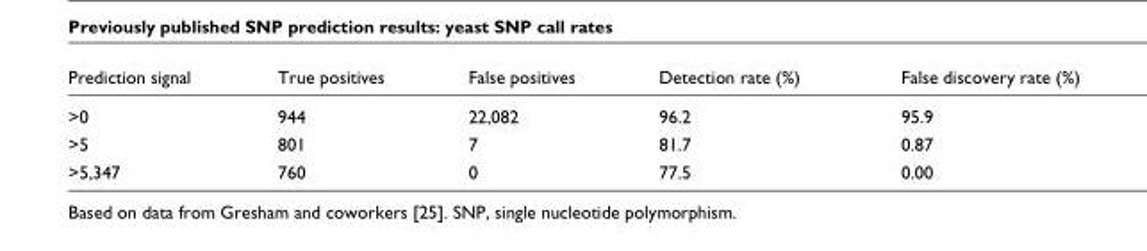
<table><thead><tr><td>Prediction signal</td><td>True positives</td><td>False positives</td><td>Detection rate (%)</td><td>False discovery rate (%)</td></tr></thead><tbody><tr><td>&gt;0</td><td>944</td><td>22,082</td><td>96.2</td><td>95.9</td></tr><tr><td>&gt;5</td><td>801</td><td>7</td><td>81.7</td><td>0.87</td></tr><tr><td>&gt;5,347</td><td>760</td><td>0</td><td>77.5</td><td>0.00</td></tr></tbody></table>